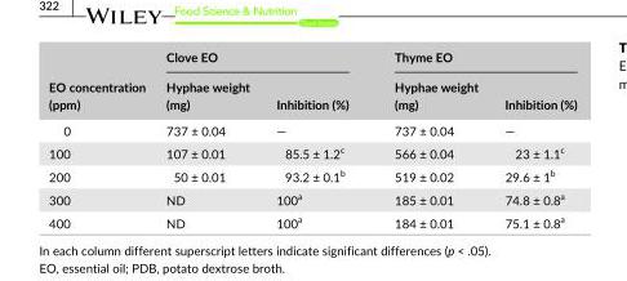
<table><thead><tr><td rowspan="2">EO concentration (ppm)</td><td colspan="2">Clove EO</td><td colspan="2">Thyme EO</td></tr><tr><td>Hyphae weight (mg)</td><td>Inhibition (%)</td><td>Hyphae weight (mg)</td><td>Inhibition (%)</td></tr></thead><tbody><tr><td>0</td><td>737 ± 0.04</td><td>—</td><td>737 ± 0.04</td><td>—</td></tr><tr><td>100</td><td>107 ± 0.01</td><td>85.5 ± 1.2<sup>c</sup></td><td>566 ± 0.04</td><td>23 ± 1.1<sup>c</sup></td></tr><tr><td>200</td><td>50 ± 0.01</td><td>93.2 ± 0.1<sup>b</sup></td><td>519 ± 0.02</td><td>29.6 ± 1<sup>b</sup></td></tr><tr><td>300</td><td>ND</td><td>100<sup>a</sup></td><td>185 ± 0.01</td><td>74.8 ± 0.8<sup>a</sup></td></tr><tr><td>400</td><td>ND</td><td>100<sup>a</sup></td><td>184 ± 0.01</td><td>75.1 ± 0.8<sup>a</sup></td></tr></tbody></table>